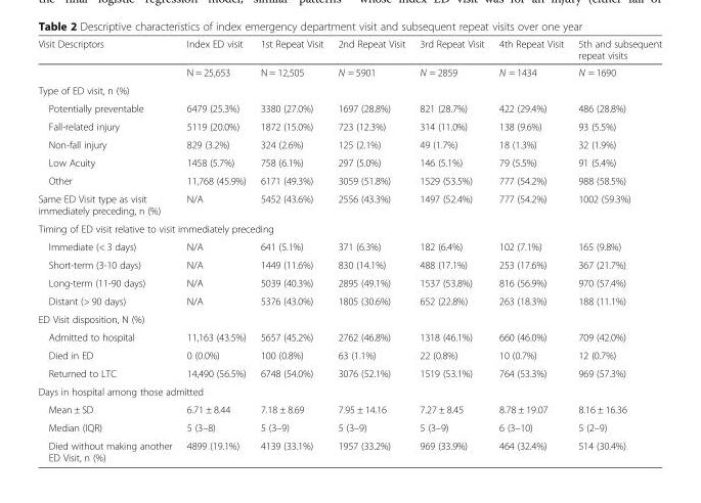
<table><thead><tr><td>Visit Descriptors</td><td>Index ED visit</td><td>1st Repeat Visit</td><td>2nd Repeat Visit</td><td>3rd Repeat Visit</td><td>4th Repeat Visit</td><td>5th and subsequent repeat visits</td></tr></thead><tbody><tr><td></td><td>N = 25,653</td><td>N = 12,505</td><td>N = 5901</td><td>N = 2859</td><td>N = 1434</td><td>N = 1690</td></tr><tr><td colspan="7">Type of ED visit, n (%)</td></tr><tr><td>Potentially preventable</td><td>6479 (25.3%)</td><td>3380 (27.0%)</td><td>1697 (28.8%)</td><td>821 (28.7%)</td><td>422 (29.4%)</td><td>486 (28.8%)</td></tr><tr><td>Fall-related injury</td><td>5119 (20.0%)</td><td>1872 (15.0%)</td><td>723 (12.3%)</td><td>314 (11.0%)</td><td>138 (9.6%)</td><td>93 (5.5%)</td></tr><tr><td>Non-fall injury</td><td>829 (3.2%)</td><td>324 (2.6%)</td><td>125 (2.1%)</td><td>49 (1.7%)</td><td>18 (1.3%)</td><td>32 (1.9%)</td></tr><tr><td>Low Acuity</td><td>1458 (5.7%)</td><td>758 (6.1%)</td><td>297 (5.0%)</td><td>146 (5.1%)</td><td>79 (5.5%)</td><td>91 (5.4%)</td></tr><tr><td>Other</td><td>11,768 (45.9%)</td><td>6171 (49.3%)</td><td>3059 (51.8%)</td><td>1529 (53.5%)</td><td>777 (54.2%)</td><td>988 (58.5%)</td></tr><tr><td>Same ED Visit type as visit immediately preceding, n (%)</td><td>N/A</td><td>5452 (43.6%)</td><td>2556 (43.3%)</td><td>1497 (52.4%)</td><td>777 (54.2%)</td><td>1002 (59.3%)</td></tr><tr><td colspan="7">Timing of ED visit relative to visit immediately preceding</td></tr><tr><td>Immediate (&lt; 3 days)</td><td>N/A</td><td>641 (5.1%)</td><td>371 (6.3%)</td><td>182 (6.4%)</td><td>102 (7.1%)</td><td>165 (9.8%)</td></tr><tr><td>Short-term (3-10 days)</td><td>N/A</td><td>1449 (11.6%)</td><td>830 (14.1%)</td><td>488 (17.1%)</td><td>253 (17.6%)</td><td>367 (21.7%)</td></tr><tr><td>Long-term (11-90 days)</td><td>N/A</td><td>5039 (40.3%)</td><td>2895 (49.1%)</td><td>1537 (53.8%)</td><td>816 (56.9%)</td><td>970 (57.4%)</td></tr><tr><td>Distant (&gt; 90 days)</td><td>N/A</td><td>5376 (43.0%)</td><td>1805 (30.6%)</td><td>652 (22.8%)</td><td>263 (18.3%)</td><td>188 (11.1%)</td></tr><tr><td colspan="7">ED Visit disposition, N (%)</td></tr><tr><td>Admitted to hospital</td><td>11,163 (43.5%)</td><td>5657 (45.2%)</td><td>2762 (46.8%)</td><td>1318 (46.1%)</td><td>660 (46.0%)</td><td>709 (42.0%)</td></tr><tr><td>Died in ED</td><td>0 (0.0%)</td><td>100 (0.8%)</td><td>63 (1.1%)</td><td>22 (0.8%)</td><td>10 (0.7%)</td><td>12 (0.7%)</td></tr><tr><td>Returned to LTC</td><td>14,490 (56.5%)</td><td>6748 (54.0%)</td><td>3076 (52.1%)</td><td>1519 (53.1%)</td><td>764 (53.3%)</td><td>969 (57.3%)</td></tr><tr><td colspan="7">Days in hospital among those admitted</td></tr><tr><td>Mean ± SD</td><td>6.71 ± 8.44</td><td>7.18 ± 8.69</td><td>7.95 ± 14.16</td><td>7.27 ± 8.45</td><td>8.78 ± 19.07</td><td>8.16 ± 16.36</td></tr><tr><td>Median (IQR)</td><td>5 (3–8)</td><td>5 (3–9)</td><td>5 (3–9)</td><td>5 (3–9)</td><td>6 (3–10)</td><td>5 (2–9)</td></tr><tr><td>Died without making another ED Visit, n (%)</td><td>4899 (19.1%)</td><td>4139 (33.1%)</td><td>1957 (33.2%)</td><td>969 (33.9%)</td><td>464 (32.4%)</td><td>514 (30.4%)</td></tr></tbody></table>